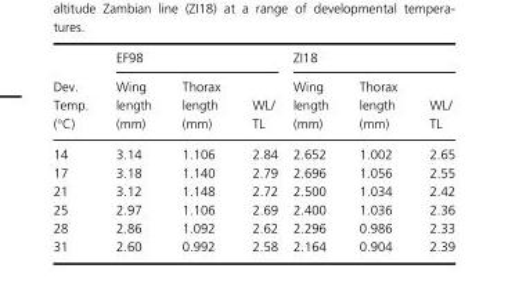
<table><thead><tr><td rowspan="2">Dev. Temp. (°C)</td><td colspan="3">EF98</td><td colspan="3">ZI18</td></tr><tr><td>Wing length (mm)</td><td>Thorax length (mm)</td><td>WL/ TL</td><td>Wing length (mm)</td><td>Thorax length (mm)</td><td>WL/ TL</td></tr></thead><tbody><tr><td>14</td><td>3.14</td><td>1.106</td><td>2.84</td><td>2.652</td><td>1.002</td><td>2.65</td></tr><tr><td>17</td><td>3.18</td><td>1.140</td><td>2.79</td><td>2.696</td><td>1.056</td><td>2.55</td></tr><tr><td>21</td><td>3.12</td><td>1.148</td><td>2.72</td><td>2.500</td><td>1.034</td><td>2.42</td></tr><tr><td>25</td><td>2.97</td><td>1.106</td><td>2.69</td><td>2.400</td><td>1.036</td><td>2.36</td></tr><tr><td>28</td><td>2.86</td><td>1.092</td><td>2.62</td><td>2.296</td><td>0.986</td><td>2.33</td></tr><tr><td>31</td><td>2.60</td><td>0.992</td><td>2.58</td><td>2.164</td><td>0.904</td><td>2.39</td></tr></tbody></table>